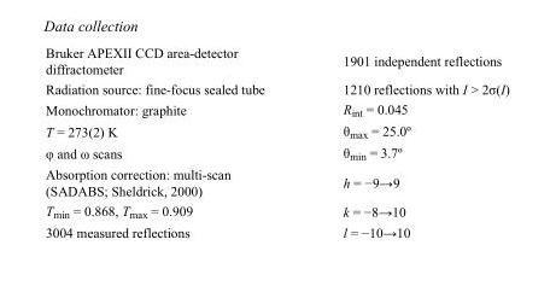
<table><tbody><tr><td>Bruker APEXII CCD area-detector diffractometer</td><td>1901 independent reflections</td></tr><tr><td>Radiation source: fine-focus sealed tube</td><td>1210 reflections with I &gt; 2σ(I)</td></tr><tr><td>Monochromator: graphite</td><td>R<sub>int</sub> = 0.045</td></tr><tr><td>T = 273(2) K</td><td>θ<sub>max</sub> = 25.0º</td></tr><tr><td>φ and ω scans</td><td>θ<sub>min</sub> = 3.7º</td></tr><tr><td>Absorption correction: multi-scan (SADABS; Sheldrick, 2000)</td><td>h = −9→9</td></tr><tr><td>T<sub>min</sub> = 0.868, T<sub>max</sub> = 0.909</td><td>k = −8→10</td></tr><tr><td>3004 measured reflections</td><td>l = −10→10</td></tr></tbody></table>